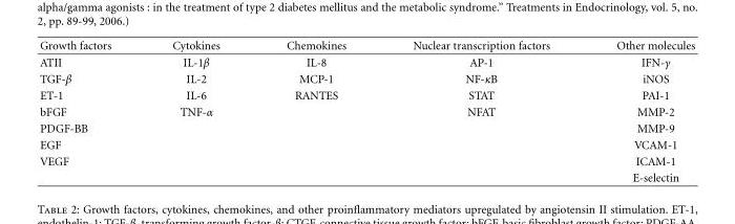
<table><thead><tr><td>Growth factors</td><td>Cytokines</td><td>Chemokines</td><td>Nuclear transcription factors</td><td>Other molecules</td></tr></thead><tbody><tr><td>ATII</td><td>IL-1β</td><td>IL-8</td><td>AP-1</td><td>IFN-γ</td></tr><tr><td>TGF-β</td><td>IL-2</td><td>MCP-1</td><td>NF-κB</td><td>iNOS</td></tr><tr><td>ET-1</td><td>IL-6</td><td>RANTES</td><td>STAT</td><td>PAI-1</td></tr><tr><td>bFGF</td><td>TNF-α</td><td></td><td>NFAT</td><td>MMP-2</td></tr><tr><td>PDGF-BB</td><td></td><td></td><td></td><td>MMP-9</td></tr><tr><td>EGF</td><td></td><td></td><td></td><td>VCAM-1</td></tr><tr><td rowspan="2">VEGF</td><td></td><td></td><td></td><td>ICAM-1</td></tr><tr><td></td><td></td><td></td><td>E-selectin</td></tr></tbody></table>